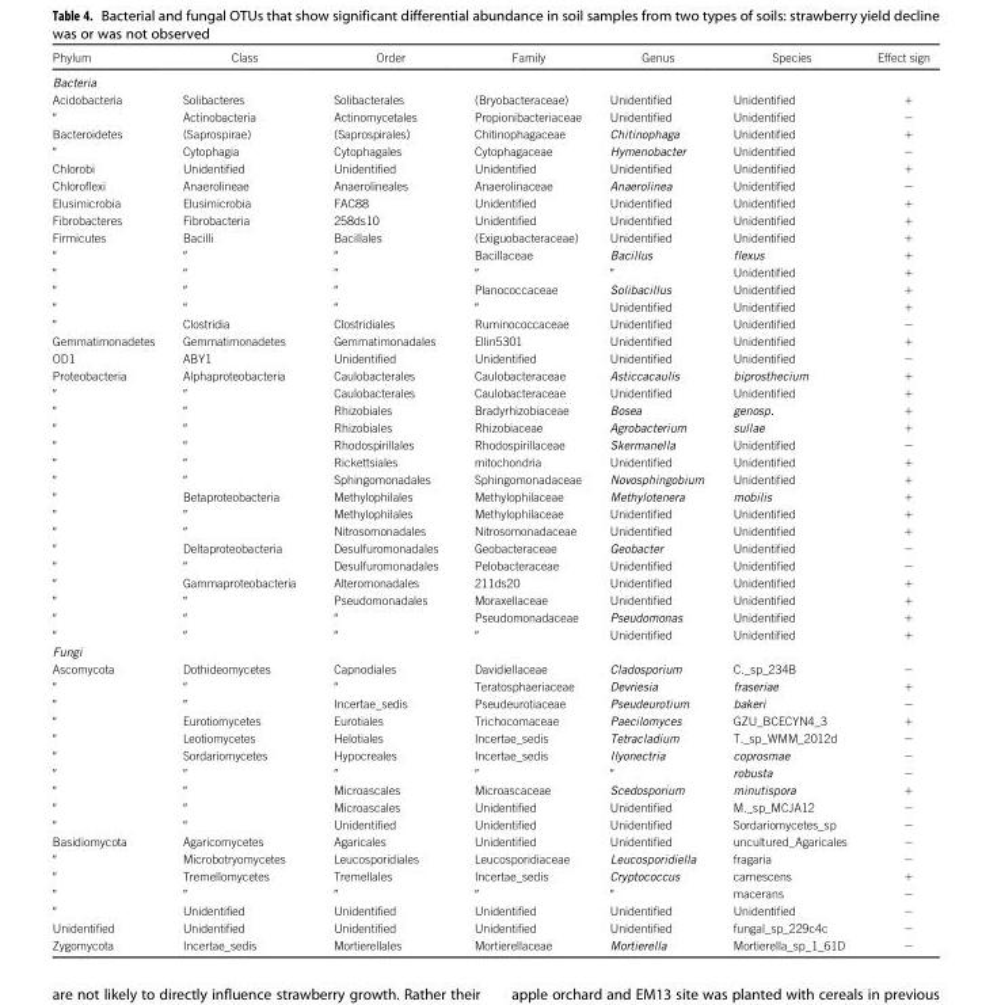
<table><thead><tr><td>Phylum</td><td>Class</td><td>Order</td><td>Family</td><td>Genus</td><td>Species</td><td>Effect sign</td></tr></thead><tbody><tr><td colspan="7">Bacteria</td></tr><tr><td>Acidobacteria</td><td>Solibacteres</td><td>Solibacterales</td><td>(Bryobacteraceae)</td><td>Unidentified</td><td>Unidentified</td><td>+</td></tr><tr><td>″</td><td>Actinobacteria</td><td>Actinomycetales</td><td>Propionibacteriaceae</td><td>Unidentified</td><td>Unidentified</td><td>−</td></tr><tr><td>Bacteroidetes</td><td>(Saprospirae)</td><td>(Saprospirales)</td><td>Chitinophagaceae</td><td>Chitinophaga</td><td>Unidentified</td><td>+</td></tr><tr><td>″</td><td>Cytophagia</td><td>Cytophagales</td><td>Cytophagaceae</td><td>Hymenobacter</td><td>Unidentified</td><td>−</td></tr><tr><td>Chlorobi</td><td>Unidentified</td><td>Unidentified</td><td>Unidentified</td><td>Unidentified</td><td>Unidentified</td><td>+</td></tr><tr><td>Chloroflexi</td><td>Anaerolineae</td><td>Anaerolineales</td><td>Anaerolinaceae</td><td>Anaerolinea</td><td>Unidentified</td><td>−</td></tr><tr><td>Elusimicrobia</td><td>Elusimicrobia</td><td>FAC88</td><td>Unidentified</td><td>Unidentified</td><td>Unidentified</td><td>+</td></tr><tr><td>Fibrobacteres</td><td>Fibrobacteria</td><td>258ds10</td><td>Unidentified</td><td>Unidentified</td><td>Unidentified</td><td>+</td></tr><tr><td>Firmicutes</td><td>Bacilli</td><td>Bacillales</td><td>(Exiguobacteraceae)</td><td>Unidentified</td><td>Unidentified</td><td>+</td></tr><tr><td>″</td><td>″</td><td>″</td><td>Bacillaceae</td><td>Bacillus</td><td>flexus</td><td>+</td></tr><tr><td>″</td><td>″</td><td>″</td><td>″</td><td>″</td><td>Unidentified</td><td>+</td></tr><tr><td>″</td><td>″</td><td>″</td><td>Planococcaceae</td><td>Solibacillus</td><td>Unidentified</td><td>+</td></tr><tr><td>″</td><td>″</td><td>″</td><td>″</td><td>Unidentified</td><td>Unidentified</td><td>+</td></tr><tr><td>″</td><td>Clostridia</td><td>Clostridiales</td><td>Ruminococcaceae</td><td>Unidentified</td><td>Unidentified</td><td>−</td></tr><tr><td>Gemmatimonadetes</td><td>Gemmatimonadetes</td><td>Gemmatimonadales</td><td>Ellin5301</td><td>Unidentified</td><td>Unidentified</td><td>+</td></tr><tr><td>OD1</td><td>ABY1</td><td>Unidentified</td><td>Unidentified</td><td>Unidentified</td><td>Unidentified</td><td>−</td></tr><tr><td>Proteobacteria</td><td>Alphaproteobacteria</td><td>Caulobacterales</td><td>Caulobacteraceae</td><td>Asticcacaulis</td><td>biprosthecium</td><td>+</td></tr><tr><td>″</td><td>″</td><td>Caulobacterales</td><td>Caulobacteraceae</td><td>Unidentified</td><td>Unidentified</td><td>+</td></tr><tr><td>″</td><td>″</td><td>Rhizobiales</td><td>Bradyrhizobiaceae</td><td>Bosea</td><td>genosp.</td><td>+</td></tr><tr><td>″</td><td>″</td><td>Rhizobiales</td><td>Rhizobiaceae</td><td>Agrobacterium</td><td>sullae</td><td>+</td></tr><tr><td>″</td><td>″</td><td>Rhodospirillales</td><td>Rhodospirillaceae</td><td>Skermanella</td><td>Unidentified</td><td>−</td></tr><tr><td>″</td><td>″</td><td>Rickettsiales</td><td>mitochondria</td><td>Unidentified</td><td>Unidentified</td><td>+</td></tr><tr><td>″</td><td>″</td><td>Sphingomonadales</td><td>Sphingomonadaceae</td><td>Novosphingobium</td><td>Unidentified</td><td>+</td></tr><tr><td>″</td><td>Betaproteobacteria</td><td>Methylophilales</td><td>Methylophilaceae</td><td>Methylotenera</td><td>mobilis</td><td>+</td></tr><tr><td>″</td><td>″</td><td>Methylophilales</td><td>Methylophilaceae</td><td>Unidentified</td><td>Unidentified</td><td>+</td></tr><tr><td>″</td><td>″</td><td>Nitrosomonadales</td><td>Nitrosomonadaceae</td><td>Unidentified</td><td>Unidentified</td><td>+</td></tr><tr><td>″</td><td>Deltaproteobacteria</td><td>Desulfuromonadales</td><td>Geobacteraceae</td><td>Geobacter</td><td>Unidentified</td><td>−</td></tr><tr><td>″</td><td>″</td><td>Desulfuromonadales</td><td>Pelobacteraceae</td><td>Unidentified</td><td>Unidentified</td><td>−</td></tr><tr><td>″</td><td>Gammaproteobacteria</td><td>Alteromonadales</td><td>211ds20</td><td>Unidentified</td><td>Unidentified</td><td>+</td></tr><tr><td>″</td><td>″</td><td>Pseudomonadales</td><td>Moraxellaceae</td><td>Unidentified</td><td>Unidentified</td><td>+</td></tr><tr><td>″</td><td>″</td><td>″</td><td>Pseudomonadaceae</td><td>Pseudomonas</td><td>Unidentified</td><td>+</td></tr><tr><td>″</td><td>″</td><td>″</td><td>″</td><td>Unidentified</td><td>Unidentified</td><td>+</td></tr><tr><td colspan="7">Fungi</td></tr><tr><td>Ascomycota</td><td>Dothideomycetes</td><td>Capnodiales</td><td>Davidiellaceae</td><td>Cladosporium</td><td>C._sp_234B</td><td>−</td></tr><tr><td>″</td><td>″</td><td>″</td><td>Teratosphaeriaceae</td><td>Devriesia</td><td>fraseriae</td><td>+</td></tr><tr><td>″</td><td>″</td><td>Incertae_sedis</td><td>Pseudeurotiaceae</td><td>Pseudeurotium</td><td>bakeri</td><td>−</td></tr><tr><td>″</td><td>Eurotiomycetes</td><td>Eurotiales</td><td>Trichocomaceae</td><td>Paecilomyces</td><td>GZU_BCECYN4_3</td><td>+</td></tr><tr><td>″</td><td>Leotiomycetes</td><td>Helotiales</td><td>Incertae_sedis</td><td>Tetracladium</td><td>T._sp_WMM_2012d</td><td>−</td></tr><tr><td>″</td><td>Sordariomycetes</td><td>Hypocreales</td><td>Incertae_sedis</td><td>Ilyonectria</td><td>coprosmae</td><td>−</td></tr><tr><td>″</td><td>″</td><td>″</td><td>″</td><td>″</td><td>robusta</td><td>−</td></tr><tr><td>″</td><td>″</td><td>Microascales</td><td>Microascaceae</td><td>Scedosporium</td><td>minutispora</td><td>+</td></tr><tr><td>″</td><td>″</td><td>Microascales</td><td>Unidentified</td><td>Unidentified</td><td>M._sp_MCJA12</td><td>−</td></tr><tr><td>″</td><td>″</td><td>Unidentified</td><td>Unidentified</td><td>Unidentified</td><td>Sordariomycetes_sp</td><td>−</td></tr><tr><td>Basidiomycota</td><td>Agaricomycetes</td><td>Agaricales</td><td>Unidentified</td><td>Unidentified</td><td>uncultured_Agaricales</td><td>−</td></tr><tr><td>″</td><td>Microbotryomycetes</td><td>Leucosporidiales</td><td>Leucosporidiaceae</td><td>Leucosporidiella</td><td>fragaria</td><td>−</td></tr><tr><td>″</td><td>Tremellomycetes</td><td>Tremellales</td><td>Incertae_sedis</td><td>Cryptococcus</td><td>carnescens</td><td>+</td></tr><tr><td>″</td><td>″</td><td>″</td><td>″</td><td>″</td><td>macerans</td><td>−</td></tr><tr><td>″</td><td>Unidentified</td><td>Unidentified</td><td>Unidentified</td><td>Unidentified</td><td>Unidentified</td><td>−</td></tr><tr><td>Unidentified</td><td>Unidentified</td><td>Unidentified</td><td>Unidentified</td><td>Unidentified</td><td>fungal_sp_229c4c</td><td>−</td></tr><tr><td>Zygomycota</td><td>Incertae_sedis</td><td>Mortierellales</td><td>Mortierellaceae</td><td>Mortierella</td><td>Mortierella_sp_1_61D</td><td>−</td></tr></tbody></table>